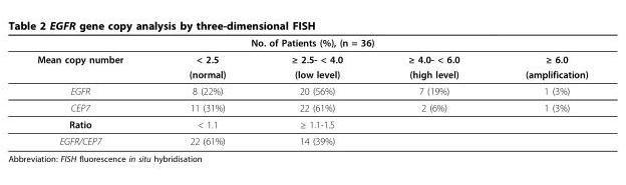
<table><thead><tr><td colspan="5">No. of Patients (%), (n = 36)</td></tr><tr><td>Mean copy number</td><td>&lt; 2.5</td><td>≥ 2.5- &lt; 4.0</td><td>≥ 4.0- &lt; 6.0</td><td>≥ 6.0</td></tr></thead><tbody><tr><td></td><td>(normal)</td><td>(low level)</td><td>(high level)</td><td>(amplification)</td></tr><tr><td>EGFR</td><td>8 (22%)</td><td>20 (56%)</td><td>7 (19%)</td><td>1 (3%)</td></tr><tr><td>CEP7</td><td>11 (31%)</td><td>22 (61%)</td><td>2 (6%)</td><td>1 (3%)</td></tr><tr><td>Ratio</td><td>&lt; 1.1</td><td>≥ 1.1-1.5</td><td></td><td></td></tr><tr><td>EGFR/CEP7</td><td>22 (61%)</td><td>14 (39%)</td><td></td><td></td></tr></tbody></table>